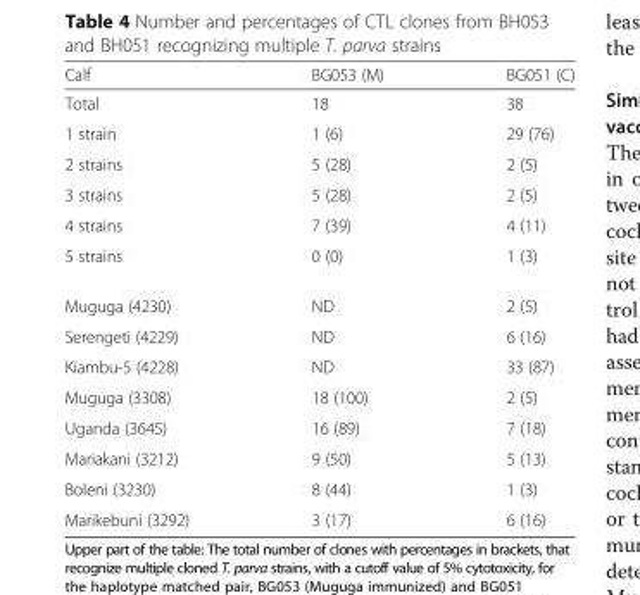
<table><thead><tr><td>Calf</td><td>BG053 (M)</td><td>BG051 (C)</td></tr></thead><tbody><tr><td>Total</td><td>18</td><td>38</td></tr><tr><td>1 strain</td><td>1 (6)</td><td>29 (76)</td></tr><tr><td>2 strains</td><td>5 (28)</td><td>2 (5)</td></tr><tr><td>3 strains</td><td>5 (28)</td><td>2 (5)</td></tr><tr><td>4 strains</td><td>7 (39)</td><td>4 (11)</td></tr><tr><td>5 strains</td><td>0 (0)</td><td>1 (3)</td></tr><tr><td>Muguga (4230)</td><td>ND</td><td>2 (5)</td></tr><tr><td>Serengeti (4229)</td><td>ND</td><td>6 (16)</td></tr><tr><td>Kiambu-5 (4228)</td><td>ND</td><td>33 (87)</td></tr><tr><td>Muguga (3308)</td><td>18 (100)</td><td>2 (5)</td></tr><tr><td>Uganda (3645)</td><td>16 (89)</td><td>7 (18)</td></tr><tr><td>Mariakani (3212)</td><td>9 (50)</td><td>5 (13)</td></tr><tr><td>Boleni (3230)</td><td>8 (44)</td><td>1 (3)</td></tr><tr><td>Marikebuni (3292)</td><td>3 (17)</td><td>6 (16)</td></tr></tbody></table>